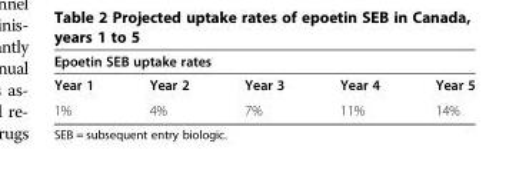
<table><thead><tr><td colspan="5">Epoetin SEB uptake rates</td></tr><tr><td>Year 1</td><td>Year 2</td><td>Year 3</td><td>Year 4</td><td>Year 5</td></tr></thead><tbody><tr><td>1%</td><td>4%</td><td>7%</td><td>11%</td><td>14%</td></tr></tbody></table>